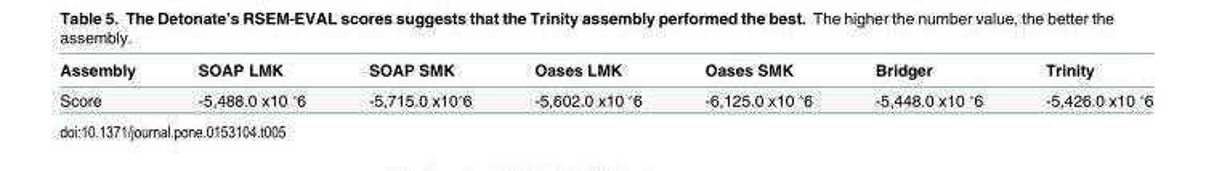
<table><thead><tr><td>Assembly</td><td>SOAP LMK</td><td>SOAP SMK</td><td>Oases LMK</td><td>Oases SMK</td><td>Bridger</td><td>Trinity</td></tr></thead><tbody><tr><td>Score</td><td>-5,488.0 x10 ˄6</td><td>-5,715.0 x10˄6</td><td>-5,602.0 x10 ˄6</td><td>-6,125.0 x10 ˄6</td><td>-5,448.0 x10 ˄6</td><td>-5,426.0 x10 ˄6</td></tr></tbody></table>